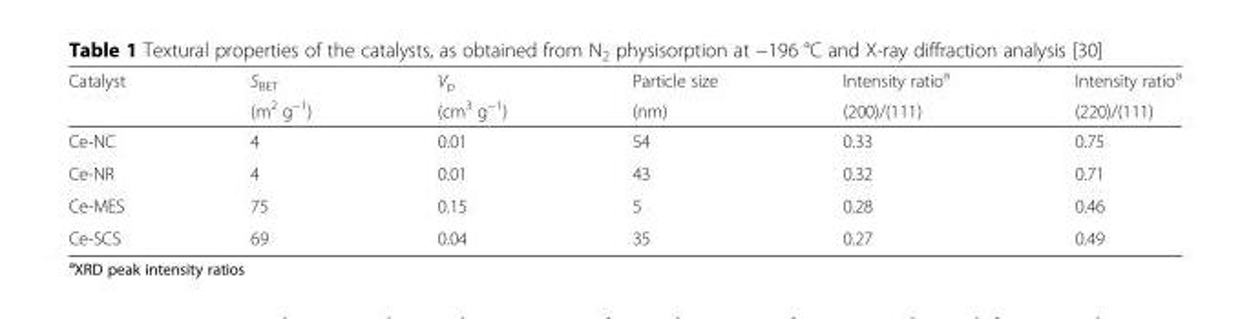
<table><thead><tr><td rowspan="2">Catalyst</td><td rowspan="2">S<sub>BET</sub> (m<sup>2</sup> g<sup>−1</sup>)</td><td rowspan="2">V<sub>p</sub> (cm<sup>3</sup> g<sup>−1</sup>)</td><td rowspan="2">Particle size (nm)</td><td rowspan="2">Intensity ratio<sup>a</sup> (200)/(111)</td><td rowspan="2">Intensity ratio<sup>a</sup> (220)/(111)</td></tr><tr></tr></thead><tbody><tr><td>Ce-NC</td><td>4</td><td>0.01</td><td>54</td><td>0.33</td><td>0.75</td></tr><tr><td>Ce-NR</td><td>4</td><td>0.01</td><td>43</td><td>0.32</td><td>0.71</td></tr><tr><td>Ce-MES</td><td>75</td><td>0.15</td><td>5</td><td>0.28</td><td>0.46</td></tr><tr><td>Ce-SCS</td><td>69</td><td>0.04</td><td>35</td><td>0.27</td><td>0.49</td></tr></tbody></table>